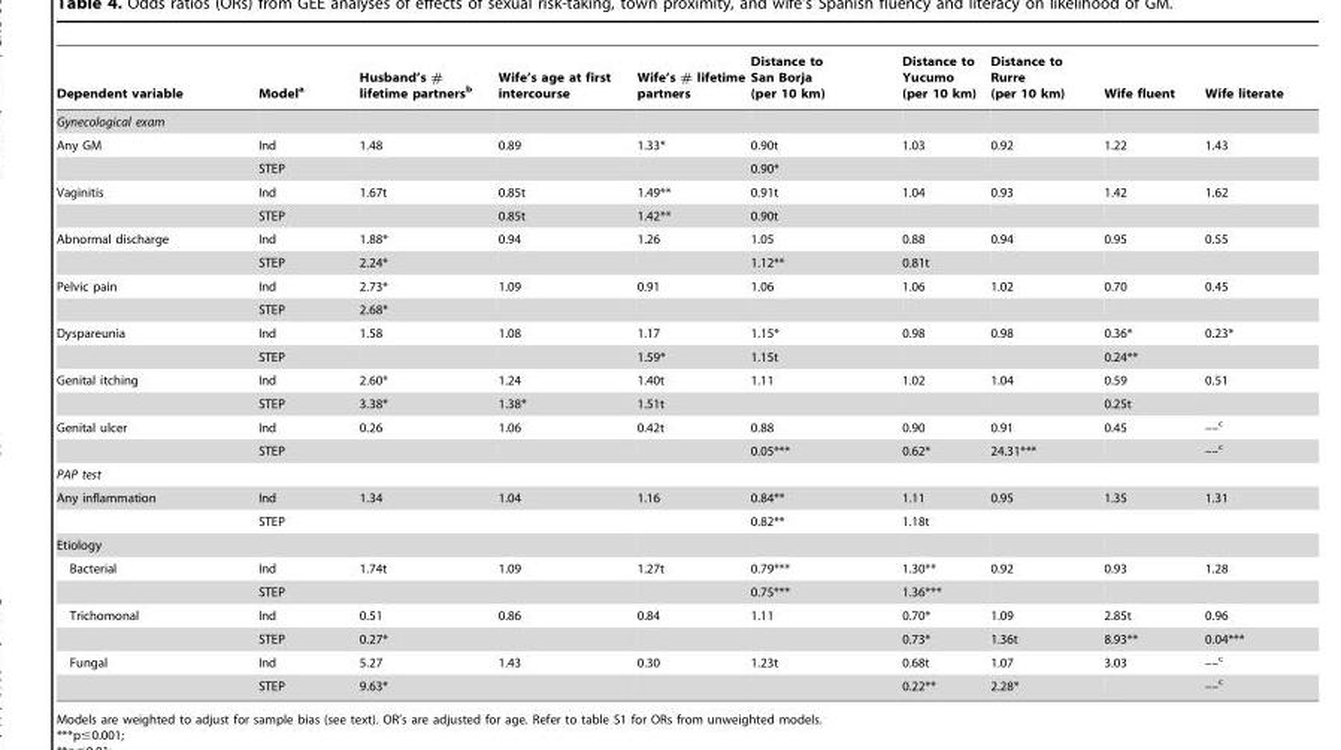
<table><thead><tr><td>Dependent variable</td><td>Model<sup>a</sup></td><td>Husband’s # lifetime partners<sup>b</sup></td><td>Wife’s age at first intercourse</td><td>Wife’s # lifetime partners</td><td>Distance to San Borja (per 10 km)</td><td>Distance to Yucumo (per 10 km)</td><td>Distance to Rurre (per 10 km)</td><td>Wife fluent</td><td>Wife literate</td></tr></thead><tbody><tr><td colspan="10">Gynecological exam</td></tr><tr><td rowspan="2">Any GM</td><td>Ind</td><td>1.48</td><td>0.89</td><td>1.33*</td><td>0.90t</td><td>1.03</td><td>0.92</td><td>1.22</td><td>1.43</td></tr><tr><td>STEP</td><td></td><td></td><td></td><td>0.90*</td><td></td><td></td><td></td><td></td></tr><tr><td rowspan="2">Vaginitis</td><td>Ind</td><td>1.67t</td><td>0.85t</td><td>1.49**</td><td>0.91t</td><td>1.04</td><td>0.93</td><td>1.42</td><td>1.62</td></tr><tr><td>STEP</td><td></td><td>0.85t</td><td>1.42**</td><td>0.90t</td><td></td><td></td><td></td><td></td></tr><tr><td rowspan="2">Abnormal discharge</td><td>Ind</td><td>1.88*</td><td>0.94</td><td>1.26</td><td>1.05</td><td>0.88</td><td>0.94</td><td>0.95</td><td>0.55</td></tr><tr><td>STEP</td><td>2.24*</td><td></td><td></td><td>1.12**</td><td>0.81t</td><td></td><td></td><td></td></tr><tr><td rowspan="2">Pelvic pain</td><td>Ind</td><td>2.73*</td><td>1.09</td><td>0.91</td><td>1.06</td><td>1.06</td><td>1.02</td><td>0.70</td><td>0.45</td></tr><tr><td>STEP</td><td>2.68*</td><td></td><td></td><td></td><td></td><td></td><td></td><td></td></tr><tr><td rowspan="2">Dyspareunia</td><td>Ind</td><td>1.58</td><td>1.08</td><td>1.17</td><td>1.15*</td><td>0.98</td><td>0.98</td><td>0.36*</td><td>0.23*</td></tr><tr><td>STEP</td><td></td><td></td><td>1.59*</td><td>1.15t</td><td></td><td></td><td>0.24**</td><td></td></tr><tr><td rowspan="2">Genital itching</td><td>Ind</td><td>2.60*</td><td>1.24</td><td>1.40t</td><td>1.11</td><td>1.02</td><td>1.04</td><td>0.59</td><td>0.51</td></tr><tr><td>STEP</td><td>3.38*</td><td>1.38*</td><td>1.51t</td><td></td><td></td><td></td><td>0.25t</td><td></td></tr><tr><td rowspan="2">Genital ulcer</td><td>Ind</td><td>0.26</td><td>1.06</td><td>0.42t</td><td>0.88</td><td>0.90</td><td>0.91</td><td>0.45</td><td>––c</td></tr><tr><td>STEP</td><td></td><td></td><td></td><td>0.05***</td><td>0.62*</td><td>24.31***</td><td></td><td>––c</td></tr><tr><td colspan="10">PAP test</td></tr><tr><td rowspan="2">Any inflammation</td><td>Ind</td><td>1.34</td><td>1.04</td><td>1.16</td><td>0.84**</td><td>1.11</td><td>0.95</td><td>1.35</td><td>1.31</td></tr><tr><td>STEP</td><td></td><td></td><td></td><td>0.82**</td><td>1.18t</td><td></td><td></td><td></td></tr><tr><td colspan="10">Etiology</td></tr><tr><td rowspan="2">Bacterial</td><td>Ind</td><td>1.74t</td><td>1.09</td><td>1.27t</td><td>0.79***</td><td>1.30**</td><td>0.92</td><td>0.93</td><td>1.28</td></tr><tr><td>STEP</td><td></td><td></td><td></td><td>0.75***</td><td>1.36***</td><td></td><td></td><td></td></tr><tr><td rowspan="2">Trichomonal</td><td>Ind</td><td>0.51</td><td>0.86</td><td>0.84</td><td>1.11</td><td>0.70*</td><td>1.09</td><td>2.85t</td><td>0.96</td></tr><tr><td>STEP</td><td>0.27*</td><td></td><td></td><td></td><td>0.73*</td><td>1.36t</td><td>8.93**</td><td>0.04***</td></tr><tr><td rowspan="2">Fungal</td><td>Ind</td><td>5.27</td><td>1.43</td><td>0.30</td><td>1.23t</td><td>0.68t</td><td>1.07</td><td>3.03</td><td>––c</td></tr><tr><td>STEP</td><td>9.63*</td><td></td><td></td><td></td><td>0.22**</td><td>2.28*</td><td></td><td>––c</td></tr></tbody></table>